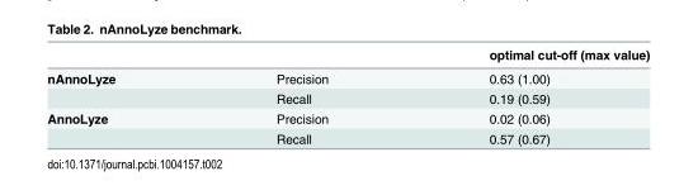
<table><thead><tr><td></td><td></td><td>optimal cut-off (max value)</td></tr></thead><tbody><tr><td rowspan="2">nAnnoLyze</td><td>Precision</td><td>0.63 (1.00)</td></tr><tr><td>Recall</td><td>0.19 (0.59)</td></tr><tr><td rowspan="2">AnnoLyze</td><td>Precision</td><td>0.02 (0.06)</td></tr><tr><td>Recall</td><td>0.57 (0.67)</td></tr></tbody></table>